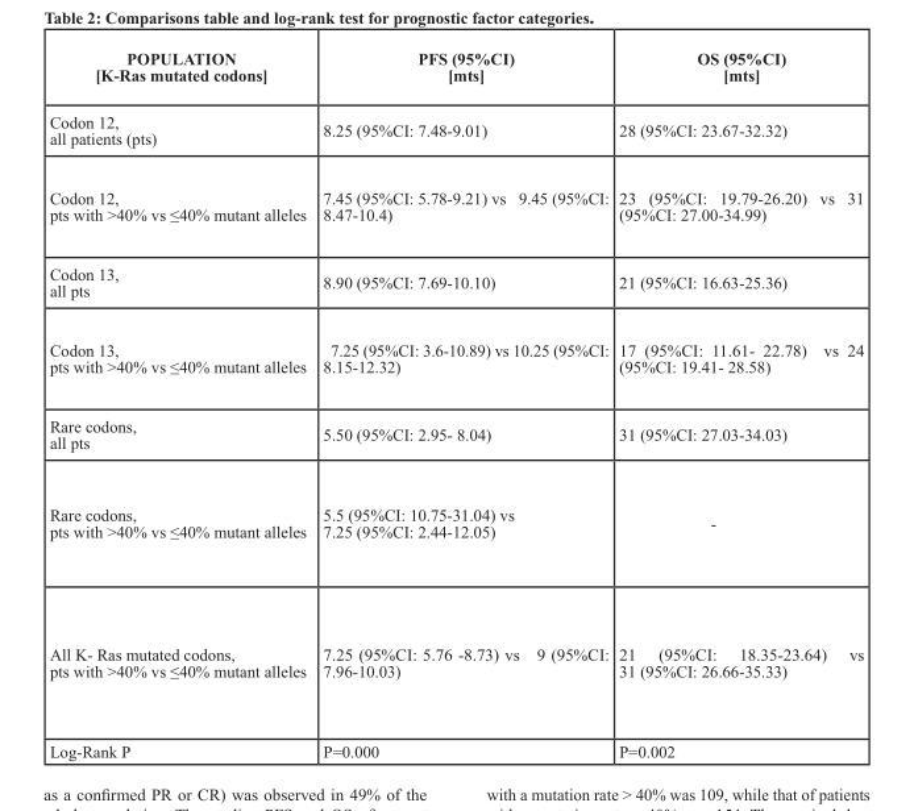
<table><thead><tr><td>POPULATION [K-Ras mutated codons]</td><td>PFS (95%CI) [mts]</td><td>OS (95%CI) [mts]</td></tr></thead><tbody><tr><td>Codon 12, all patients (pts)</td><td>8.25 (95%CI: 7.48-9.01)</td><td>28 (95%CI: 23.67-32.32)</td></tr><tr><td>Codon 12, pts with &gt;40% vs ≤40% mutant alleles</td><td>7.45 (95%CI: 5.78-9.21) vs 9.45 (95%CI: 8.47-10.4)</td><td>23 (95%CI: 19.79-26.20) vs 31 (95%CI: 27.00-34.99)</td></tr><tr><td>Codon 13, all pts</td><td>8.90 (95%CI: 7.69-10.10)</td><td>21 (95%CI: 16.63-25.36)</td></tr><tr><td>Codon 13, pts with &gt;40% vs ≤40% mutant alleles</td><td>7.25 (95%CI: 3.6-10.89) vs 10.25 (95%CI: 8.15-12.32)</td><td>17 (95%CI: 11.61- 22.78) vs 24 (95%CI: 19.41- 28.58)</td></tr><tr><td>Rare codons, all pts</td><td>5.50 (95%CI: 2.95- 8.04)</td><td>31 (95%CI: 27.03-34.03)</td></tr><tr><td>Rare codons, pts with &gt;40% vs ≤40% mutant alleles</td><td>5.5 (95%CI: 10.75-31.04) vs 7.25 (95%CI: 2.44-12.05)</td><td>-</td></tr><tr><td>All K- Ras mutated codons, pts with &gt;40% vs ≤40% mutant alleles</td><td>7.25 (95%CI: 5.76 -8.73) vs 9 (95%CI: 7.96-10.03)</td><td>21 (95%CI: 18.35-23.64) vs 31 (95%CI: 26.66-35.33)</td></tr><tr><td>Log-Rank P</td><td>P=0.000</td><td>P=0.002</td></tr></tbody></table>